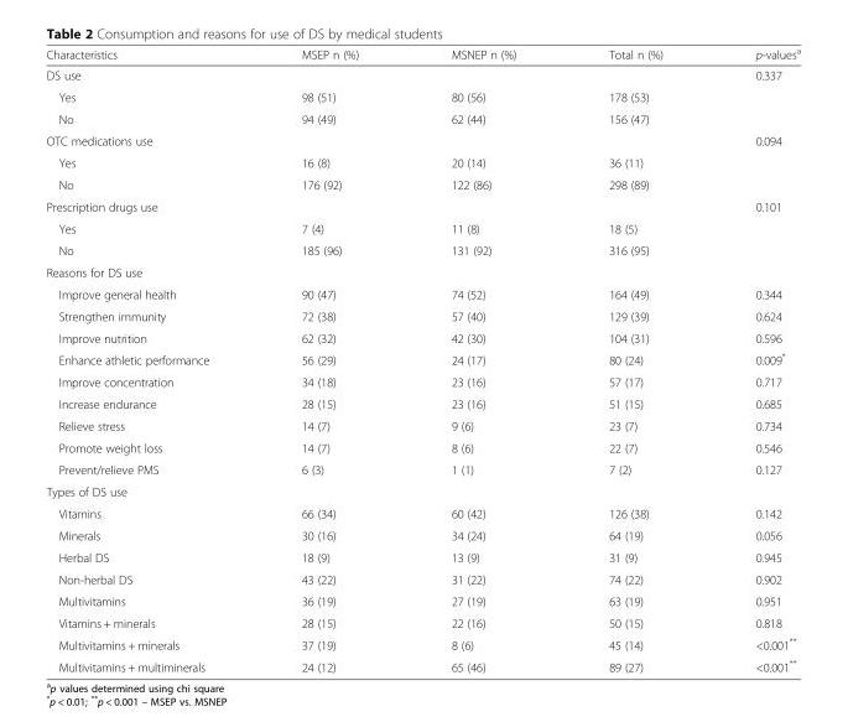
<table><thead><tr><td>Characteristics</td><td>MSEP n (%)</td><td>MSNEP n (%)</td><td>Total n (%)</td><td>p-values<sup>a</sup></td></tr></thead><tbody><tr><td>DS use</td><td></td><td></td><td></td><td>0.337</td></tr><tr><td>Yes</td><td>98 (51)</td><td>80 (56)</td><td>178 (53)</td><td></td></tr><tr><td>No</td><td>94 (49)</td><td>62 (44)</td><td>156 (47)</td><td></td></tr><tr><td>OTC medications use</td><td></td><td></td><td></td><td>0.094</td></tr><tr><td>Yes</td><td>16 (8)</td><td>20 (14)</td><td>36 (11)</td><td></td></tr><tr><td>No</td><td>176 (92)</td><td>122 (86)</td><td>298 (89)</td><td></td></tr><tr><td>Prescription drugs use</td><td></td><td></td><td></td><td>0.101</td></tr><tr><td>Yes</td><td>7 (4)</td><td>11 (8)</td><td>18 (5)</td><td></td></tr><tr><td>No</td><td>185 (96)</td><td>131 (92)</td><td>316 (95)</td><td></td></tr><tr><td colspan="5">Reasons for DS use</td></tr><tr><td>Improve general health</td><td>90 (47)</td><td>74 (52)</td><td>164 (49)</td><td>0.344</td></tr><tr><td>Strengthen immunity</td><td>72 (38)</td><td>57 (40)</td><td>129 (39)</td><td>0.624</td></tr><tr><td>Improve nutrition</td><td>62 (32)</td><td>42 (30)</td><td>104 (31)</td><td>0.596</td></tr><tr><td>Enhance athletic performance</td><td>56 (29)</td><td>24 (17)</td><td>80 (24)</td><td>0.009*</td></tr><tr><td>Improve concentration</td><td>34 (18)</td><td>23 (16)</td><td>57 (17)</td><td>0.717</td></tr><tr><td>Increase endurance</td><td>28 (15)</td><td>23 (16)</td><td>51 (15)</td><td>0.685</td></tr><tr><td>Relieve stress</td><td>14 (7)</td><td>9 (6)</td><td>23 (7)</td><td>0.734</td></tr><tr><td>Promote weight loss</td><td>14 (7)</td><td>8 (6)</td><td>22 (7)</td><td>0.546</td></tr><tr><td>Prevent/relieve PMS</td><td>6 (3)</td><td>1 (1)</td><td>7 (2)</td><td>0.127</td></tr><tr><td colspan="5">Types of DS use</td></tr><tr><td>Vitamins</td><td>66 (34)</td><td>60 (42)</td><td>126 (38)</td><td>0.142</td></tr><tr><td>Minerals</td><td>30 (16)</td><td>34 (24)</td><td>64 (19)</td><td>0.056</td></tr><tr><td>Herbal DS</td><td>18 (9)</td><td>13 (9)</td><td>31 (9)</td><td>0.945</td></tr><tr><td>Non-herbal DS</td><td>43 (22)</td><td>31 (22)</td><td>74 (22)</td><td>0.902</td></tr><tr><td>Multivitamins</td><td>36 (19)</td><td>27 (19)</td><td>63 (19)</td><td>0.951</td></tr><tr><td>Vitamins + minerals</td><td>28 (15)</td><td>22 (16)</td><td>50 (15)</td><td>0.818</td></tr><tr><td>Multivitamins + minerals</td><td>37 (19)</td><td>8 (6)</td><td>45 (14)</td><td>&lt;0.001**</td></tr><tr><td>Multivitamins + multiminerals</td><td>24 (12)</td><td>65 (46)</td><td>89 (27)</td><td>&lt;0.001**</td></tr></tbody></table>